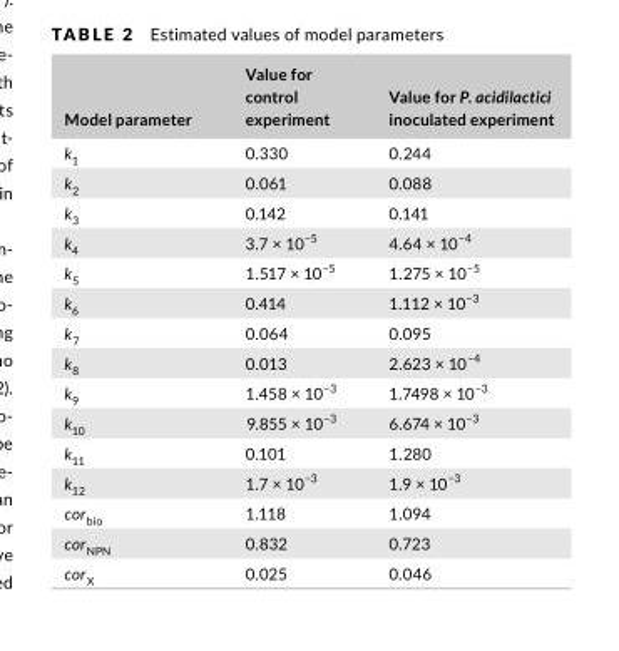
<table><thead><tr><td>Model parameter</td><td>Value for control experiment</td><td>Value for P. acidilactici inoculated experiment</td></tr></thead><tbody><tr><td>k<sub>1</sub></td><td>0.330</td><td>0.244</td></tr><tr><td>k<sub>2</sub></td><td>0.061</td><td>0.088</td></tr><tr><td>k<sub>3</sub></td><td>0.142</td><td>0.141</td></tr><tr><td>k<sub>4</sub></td><td>3.7 × 10<sup>−5</sup></td><td>4.64 × 10<sup>−4</sup></td></tr><tr><td>k<sub>5</sub></td><td>1.517 × 10<sup>−5</sup></td><td>1.275 × 10<sup>−5</sup></td></tr><tr><td>k<sub>6</sub></td><td>0.414</td><td>1.112 × 10<sup>−3</sup></td></tr><tr><td>k<sub>7</sub></td><td>0.064</td><td>0.095</td></tr><tr><td>k<sub>8</sub></td><td>0.013</td><td>2.623 × 10<sup>−4</sup></td></tr><tr><td>k<sub>9</sub></td><td>1.458 × 10<sup>−3</sup></td><td>1.7498 × 10<sup>−3</sup></td></tr><tr><td>k<sub>10</sub></td><td>9.855 × 10<sup>−3</sup></td><td>6.674 × 10<sup>−3</sup></td></tr><tr><td>k<sub>11</sub></td><td>0.101</td><td>1.280</td></tr><tr><td>k<sub>12</sub></td><td>1.7 × 10<sup>−3</sup></td><td>1.9 × 10<sup>−3</sup></td></tr><tr><td>cor<sub>bio</sub></td><td>1.118</td><td>1.094</td></tr><tr><td>cor<sub>NPN</sub></td><td>0.832</td><td>0.723</td></tr><tr><td>cor<sub>X</sub></td><td>0.025</td><td>0.046</td></tr></tbody></table>